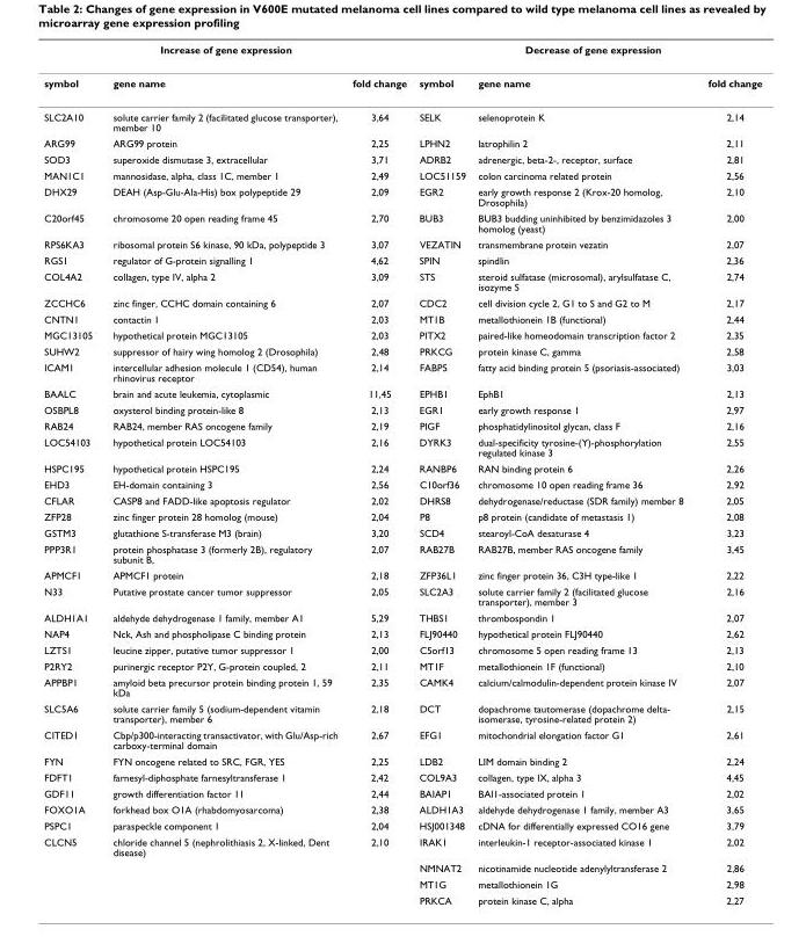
<table><thead><tr><td colspan="3">Increase of gene expression</td><td colspan="3">Decrease of gene expression</td></tr><tr><td>symbol</td><td>gene name</td><td>fold change</td><td>symbol</td><td>gene name</td><td>fold change</td></tr></thead><tbody><tr><td>SLC2A10</td><td>solute carrier family 2 (facilitated glucose transporter), member 10</td><td>3,64</td><td>SELK</td><td>selenoprotein K</td><td>2,14</td></tr><tr><td>ARG99</td><td>ARG99 protein</td><td>2,25</td><td>LPHN2</td><td>latrophilin 2</td><td>2,11</td></tr><tr><td>SOD3</td><td>superoxide dismutase 3, extracellular</td><td>3,71</td><td>ADRB2</td><td>adrenergic, beta-2-, receptor, surface</td><td>2,81</td></tr><tr><td>MAN1C1</td><td>mannosidase, alpha, class 1C, member 1</td><td>2,49</td><td>LOC51159</td><td>colon carcinoma related protein</td><td>2,56</td></tr><tr><td>DHX29</td><td>DEAH (Asp-Glu-Ala-His) box polypeptide 29</td><td>2,09</td><td>EGR2</td><td>early growth response 2 (Krox-20 homolog, Drosophila)</td><td>2,10</td></tr><tr><td>C20orf45</td><td>chromosome 20 open reading frame 45</td><td>2,70</td><td>BUB3</td><td>BUB3 budding uninhibited by benzimidazoles 3 homolog (yeast)</td><td>2,00</td></tr><tr><td>RPS6KA3</td><td>ribosomal protein S6 kinase, 90 kDa, polypeptide 3</td><td>3,07</td><td>VEZATIN</td><td>transmembrane protein vezatin</td><td>2,07</td></tr><tr><td>RGS1</td><td>regulator of G-protein signalling 1</td><td>4,62</td><td>SPIN</td><td>spindlin</td><td>2,36</td></tr><tr><td>COL4A2</td><td>collagen, type IV, alpha 2</td><td>3,09</td><td>STS</td><td>steroid sulfatase (microsomal), arylsulfatase C, isozyme S</td><td>2,74</td></tr><tr><td>ZCCHC6</td><td>zinc finger, CCHC domain containing 6</td><td>2,07</td><td>CDC2</td><td>cell division cycle 2, G1 to S and G2 to M</td><td>2,17</td></tr><tr><td>CNTN1</td><td>contactin 1</td><td>2,03</td><td>MT1B</td><td>metallothionein 1B (functional)</td><td>2,44</td></tr><tr><td>MGC13105</td><td>hypothetical protein MGC13105</td><td>2,03</td><td>PITX2</td><td>paired-like homeodomain transcription factor 2</td><td>2,35</td></tr><tr><td>SUHW2</td><td>suppressor of hairy wing homolog 2 (Drosophila)</td><td>2,48</td><td>PRKCG</td><td>protein kinase C, gamma</td><td>2,58</td></tr><tr><td>ICAM1</td><td>intercellular adhesion molecule 1 (CD54), human rhinovirus receptor</td><td>2,14</td><td>FABP5</td><td>fatty acid binding protein 5 (psoriasis-associated)</td><td>3,03</td></tr><tr><td>BAALC</td><td>brain and acute leukemia, cytoplasmic</td><td>11,45</td><td>EPHB1</td><td>EphB1</td><td>2,13</td></tr><tr><td>OSBPL8</td><td>oxysterol binding protein-like 8</td><td>2,13</td><td>EGR1</td><td>early growth response 1</td><td>2,97</td></tr><tr><td>RAB24</td><td>RAB24, member RAS oncogene family</td><td>2,19</td><td>PIGF</td><td>phosphatidylinositol glycan, class F</td><td>2,16</td></tr><tr><td>LOC54103</td><td>hypothetical protein LOC54103</td><td>2,16</td><td>DYRK3</td><td>dual-specificity tyrosine-(Y)-phosphorylation regulated kinase 3</td><td>2,55</td></tr><tr><td>HSPC195</td><td>hypothetical protein HSPC195</td><td>2,24</td><td>RANBP6</td><td>RAN binding protein 6</td><td>2,26</td></tr><tr><td>EHD3</td><td>EH-domain containing 3</td><td>2,56</td><td>C10orf36</td><td>chromosome 10 open reading frame 36</td><td>2,92</td></tr><tr><td>CFLAR</td><td>CASP8 and FADD-like apoptosis regulator</td><td>2,02</td><td>DHRS8</td><td>dehydrogenase/reductase (SDR family) member 8</td><td>2,05</td></tr><tr><td>ZFP28</td><td>zinc finger protein 28 homolog (mouse)</td><td>2,04</td><td>P8</td><td>p8 protein (candidate of metastasis 1)</td><td>2,08</td></tr><tr><td>GSTM3</td><td>glutathione S-transferase M3 (brain)</td><td>3,20</td><td>SCD4</td><td>stearoyl-CoA desaturase 4</td><td>3,23</td></tr><tr><td>PPP3R1</td><td>protein phosphatase 3 (formerly 2B), regulatory subunit B,</td><td>2,07</td><td>RAB27B</td><td>RAB27B, member RAS oncogene family</td><td>3,45</td></tr><tr><td>APMCF1</td><td>APMCF1 protein</td><td>2,18</td><td>ZFP36L1</td><td>zinc finger protein 36, C3H type-like 1</td><td>2,22</td></tr><tr><td>N33</td><td>Putative prostate cancer tumor suppressor</td><td>2,05</td><td>SLC2A3</td><td>solute carrier family 2 (facilitated glucose transporter), member 3</td><td>2,16</td></tr><tr><td>ALDH1A1</td><td>aldehyde dehydrogenase 1 family, member A1</td><td>5,29</td><td>THBS1</td><td>thrombospondin 1</td><td>2,07</td></tr><tr><td>NAP4</td><td>Nck, Ash and phospholipase C binding protein</td><td>2,13</td><td>FLJ90440</td><td>hypothetical protein FLJ90440</td><td>2,62</td></tr><tr><td>LZTS1</td><td>leucine zipper, putative tumor suppressor 1</td><td>2,00</td><td>C5orf13</td><td>chromosome 5 open reading frame 13</td><td>2,13</td></tr><tr><td>P2RY2</td><td>purinergic receptor P2Y, G-protein coupled, 2</td><td>2,11</td><td>MT1F</td><td>metallothionein 1F (functional)</td><td>2,10</td></tr><tr><td>APPBP1</td><td>amyloid beta precursor protein binding protein 1, 59 kDa</td><td>2,35</td><td>CAMK4</td><td>calcium/calmodulin-dependent protein kinase IV</td><td>2,07</td></tr><tr><td>SLC5A6</td><td>solute carrier family 5 (sodium-dependent vitamin transporter), member 6</td><td>2,18</td><td>DCT</td><td>dopachrome tautomerase (dopachrome delta- isomerase, tyrosine-related protein 2)</td><td>2,15</td></tr><tr><td>CITED1</td><td>Cbp/p300-interacting transactivator, with Glu/Asp-rich carboxy-terminal domain</td><td>2,67</td><td>EFG1</td><td>mitochondrial elongation factor G1</td><td>2,61</td></tr><tr><td>FYN</td><td>FYN oncogene related to SRC, FGR, YES</td><td>2,25</td><td>LDB2</td><td>LIM domain binding 2</td><td>2,24</td></tr><tr><td>FDFT1</td><td>farnesyl-diphosphate farnesyltransferase 1</td><td>2,42</td><td>COL9A3</td><td>collagen, type IX, alpha 3</td><td>4,45</td></tr><tr><td>GDF11</td><td>growth differentiation factor 11</td><td>2,44</td><td>BAIAP1</td><td>BAI1-associated protein 1</td><td>2,02</td></tr><tr><td>FOXO1A</td><td>forkhead box O1A (rhabdomyosarcoma)</td><td>2,38</td><td>ALDH1A3</td><td>aldehyde dehydrogenase 1 family, member A3</td><td>3,65</td></tr><tr><td>PSPC1</td><td>paraspeckle component 1</td><td>2,04</td><td>HSJ001348</td><td>cDNA for differentially expressed CO16 gene</td><td>3,79</td></tr><tr><td rowspan="4">CLCN5</td><td>chloride channel 5 (nephrolithiasis 2, X-linked, Dent disease)</td><td>2,10</td><td>IRAK1</td><td>interleukin-1 receptor-associated kinase 1</td><td>2,02</td></tr><tr><td></td><td></td><td>NMNAT2</td><td>nicotinamide nucleotide adenylyltransferase 2</td><td>2,86</td></tr><tr><td></td><td></td><td>MT1G</td><td>metallothionein 1G</td><td>2,98</td></tr><tr><td></td><td></td><td>PRKCA</td><td>protein kinase C, alpha</td><td>2,27</td></tr></tbody></table>